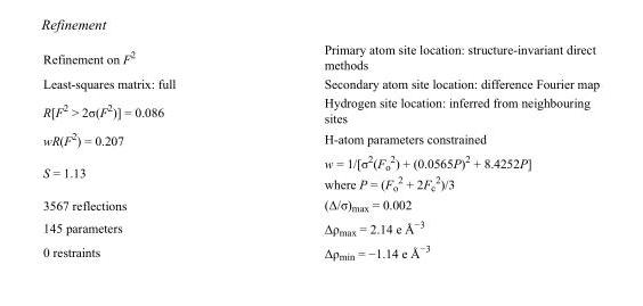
<table><tbody><tr><td>Refinement on F<sup>2</sup></td><td>Primary atom site location: structure-invariant direct methods</td></tr><tr><td>Least-squares matrix: full</td><td>Secondary atom site location: difference Fourier map</td></tr><tr><td>R[F<sup>2</sup> &gt; 2σ(F<sup>2</sup>)] = 0.086</td><td>Hydrogen site location: inferred from neighbouring sites</td></tr><tr><td>wR(F<sup>2</sup>) = 0.207</td><td>H-atom parameters constrained</td></tr><tr><td>S = 1.13</td><td>w = 1/[σ<sup>2</sup>(F<sub>o</sub> <sup>2</sup>) + (0.0565P)<sup>2</sup> + 8.4252P] where P = (F<sub>o</sub> <sup>2</sup> + 2F<sub>c</sub> <sup>2</sup>)/3</td></tr><tr><td>3567 reflections</td><td>(Δ/σ)<sub>max</sub> = 0.002</td></tr><tr><td>145 parameters</td><td>Δρ<sub>max</sub> = 2.14 e Å<sup>−3</sup></td></tr><tr><td>0 restraints</td><td>Δρ<sub>min</sub> = −1.14 e Å<sup>−3</sup></td></tr></tbody></table>